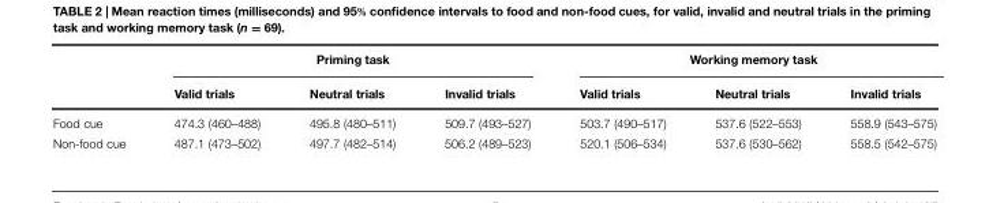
<table><thead><tr><td rowspan="2"></td><td colspan="3">Priming task</td><td colspan="3">Working memory task</td></tr><tr><td>Valid trials</td><td>Neutral trials</td><td>Invalid trials</td><td>Valid trials</td><td>Neutral trials</td><td>Invalid trials</td></tr></thead><tbody><tr><td>Food cue</td><td>474.3 (460–488)</td><td>495.8 (480–511)</td><td>509.7 (493–527)</td><td>503.7 (490–517)</td><td>537.6 (522–553)</td><td>558.9 (543–575)</td></tr><tr><td>Non-food cue</td><td>487.1 (473–502)</td><td>497.7 (482–514)</td><td>506.2 (489–523)</td><td>520.1 (506–534)</td><td>537.6 (530–562)</td><td>558.5 (542–575)</td></tr></tbody></table>